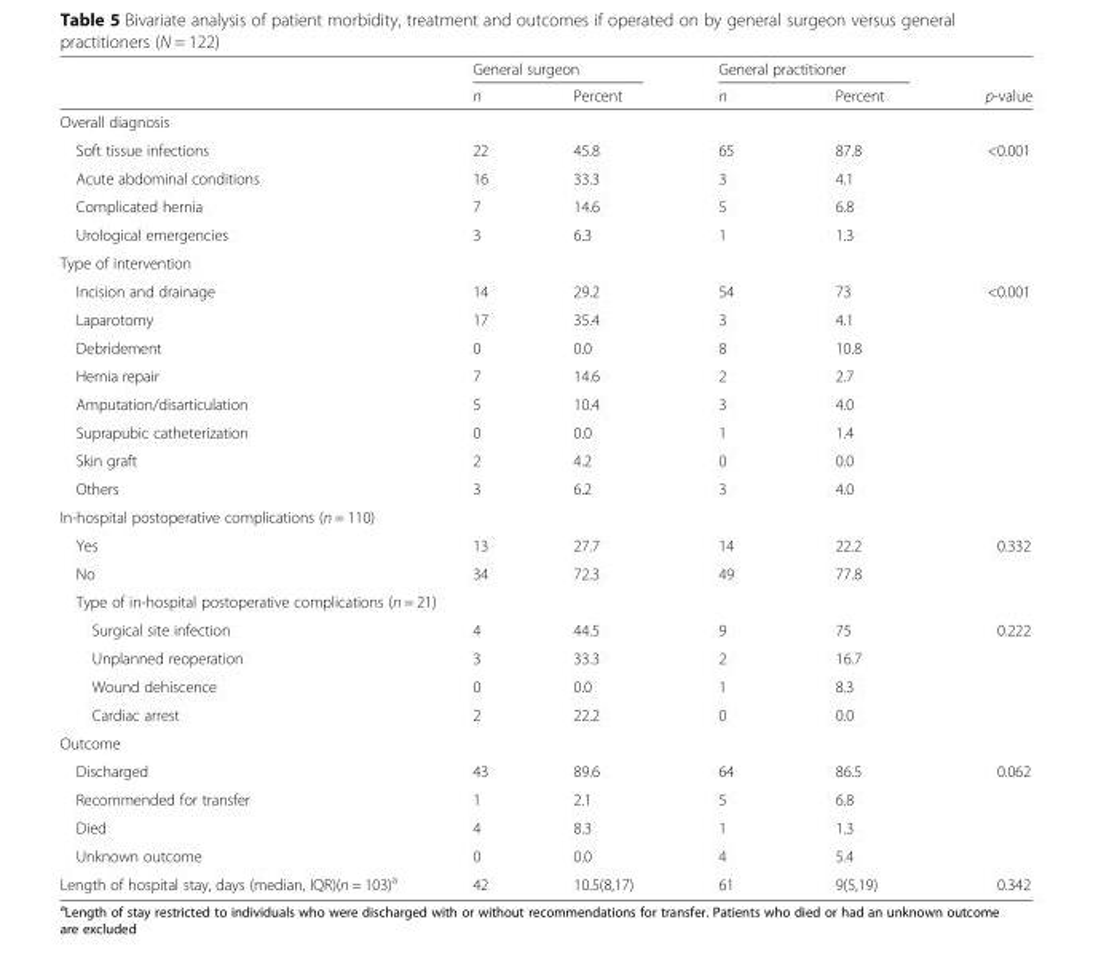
<table><thead><tr><td rowspan="2"></td><td colspan="2">General surgeon</td><td colspan="2">General practitioner</td><td rowspan="2">p-value</td></tr><tr><td>n</td><td>Percent</td><td>n</td><td>Percent</td></tr></thead><tbody><tr><td colspan="6">Overall diagnosis</td></tr><tr><td>Soft tissue infections</td><td>22</td><td>45.8</td><td>65</td><td>87.8</td><td rowspan="4">&lt;0.001</td></tr><tr><td>Acute abdominal conditions</td><td>16</td><td>33.3</td><td>3</td><td>4.1</td></tr><tr><td>Complicated hernia</td><td>7</td><td>14.6</td><td>5</td><td>6.8</td></tr><tr><td>Urological emergencies</td><td>3</td><td>6.3</td><td>1</td><td>1.3</td></tr><tr><td colspan="6">Type of intervention</td></tr><tr><td>Incision and drainage</td><td>14</td><td>29.2</td><td>54</td><td>73</td><td rowspan="8">&lt;0.001</td></tr><tr><td>Laparotomy</td><td>17</td><td>35.4</td><td>3</td><td>4.1</td></tr><tr><td>Debridement</td><td>0</td><td>0.0</td><td>8</td><td>10.8</td></tr><tr><td>Hernia repair</td><td>7</td><td>14.6</td><td>2</td><td>2.7</td></tr><tr><td>Amputation/disarticulation</td><td>5</td><td>10.4</td><td>3</td><td>4.0</td></tr><tr><td>Suprapubic catheterization</td><td>0</td><td>0.0</td><td>1</td><td>1.4</td></tr><tr><td>Skin graft</td><td>2</td><td>4.2</td><td>0</td><td>0.0</td></tr><tr><td>Others</td><td>3</td><td>6.2</td><td>3</td><td>4.0</td></tr><tr><td colspan="6">In-hospital postoperative complications (n = 110)</td></tr><tr><td>Yes</td><td>13</td><td>27.7</td><td>14</td><td>22.2</td><td rowspan="2">0.332</td></tr><tr><td>No</td><td>34</td><td>72.3</td><td>49</td><td>77.8</td></tr><tr><td colspan="6">Type of in-hospital postoperative complications (n = 21)</td></tr><tr><td>Surgical site infection</td><td>4</td><td>44.5</td><td>9</td><td>75</td><td rowspan="4">0.222</td></tr><tr><td>Unplanned reoperation</td><td>3</td><td>33.3</td><td>2</td><td>16.7</td></tr><tr><td>Wound dehiscence</td><td>0</td><td>0.0</td><td>1</td><td>8.3</td></tr><tr><td>Cardiac arrest</td><td>2</td><td>22.2</td><td>0</td><td>0.0</td></tr><tr><td colspan="6">Outcome</td></tr><tr><td>Discharged</td><td>43</td><td>89.6</td><td>64</td><td>86.5</td><td rowspan="4">0.062</td></tr><tr><td>Recommended for transfer</td><td>1</td><td>2.1</td><td>5</td><td>6.8</td></tr><tr><td>Died</td><td>4</td><td>8.3</td><td>1</td><td>1.3</td></tr><tr><td>Unknown outcome</td><td>0</td><td>0.0</td><td>4</td><td>5.4</td></tr><tr><td>Length of hospital stay, days (median, IQR)(n = 103)<sup>a</sup></td><td>42</td><td>10.5(8,17)</td><td>61</td><td>9(5,19)</td><td>0.342</td></tr></tbody></table>